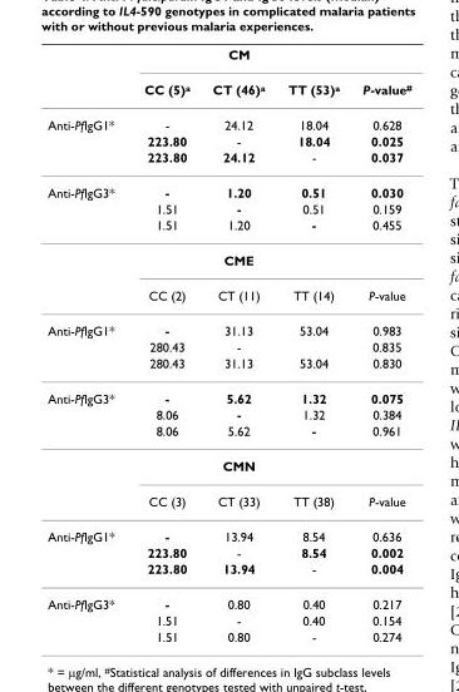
<table><thead><tr><td rowspan="2"></td><td rowspan="2">CC (5)<sup>a</sup></td><td rowspan="2">CM CT (46)<sup>a</sup></td><td rowspan="2">TT (53)<sup>a</sup></td><td rowspan="2">P-value<sup>#</sup></td></tr><tr></tr></thead><tbody><tr><td rowspan="3">Anti-PfIgG1*</td><td>-</td><td>24.12</td><td>18.04</td><td>0.628</td></tr><tr><td>223.80</td><td>-</td><td>18.04</td><td>0.025</td></tr><tr><td>223.80</td><td>24.12</td><td>-</td><td>0.037</td></tr><tr><td rowspan="5">Anti-PfIgG3*</td><td>-</td><td>1.20</td><td>0.51</td><td>0.030</td></tr><tr><td>1.51</td><td>-</td><td>0.51</td><td>0.159</td></tr><tr><td>1.51</td><td>1.20</td><td>-</td><td>0.455</td></tr><tr><td></td><td>CME</td><td></td><td></td></tr><tr><td>CC (2)</td><td>CT (11)</td><td>TT (14)</td><td>P-value</td></tr><tr><td rowspan="3">Anti-PfIgG1*</td><td>-</td><td>31.13</td><td>53.04</td><td>0.983</td></tr><tr><td>280.43</td><td>-</td><td></td><td>0.835</td></tr><tr><td>280.43</td><td>31.13</td><td>53.04</td><td>0.830</td></tr><tr><td rowspan="5">Anti-PfIgG3*</td><td>-</td><td>5.62</td><td>1.32</td><td>0.075</td></tr><tr><td>8.06</td><td>-</td><td>1.32</td><td>0.384</td></tr><tr><td>8.06</td><td>5.62</td><td>-</td><td>0.961</td></tr><tr><td></td><td>CMN</td><td></td><td></td></tr><tr><td>CC (3)</td><td>CT (33)</td><td>TT (38)</td><td>P-value</td></tr><tr><td rowspan="3">Anti-PfIgG1*</td><td>-</td><td>13.94</td><td>8.54</td><td>0.636</td></tr><tr><td>223.80</td><td>-</td><td>8.54</td><td>0.002</td></tr><tr><td>223.80</td><td>13.94</td><td>-</td><td>0.004</td></tr><tr><td rowspan="3">Anti-PfIgG3*</td><td>-</td><td>0.80</td><td>0.40</td><td>0.217</td></tr><tr><td>1.51</td><td>-</td><td>0.40</td><td>0.154</td></tr><tr><td>1.51</td><td>0.80</td><td>-</td><td>0.274</td></tr></tbody></table>